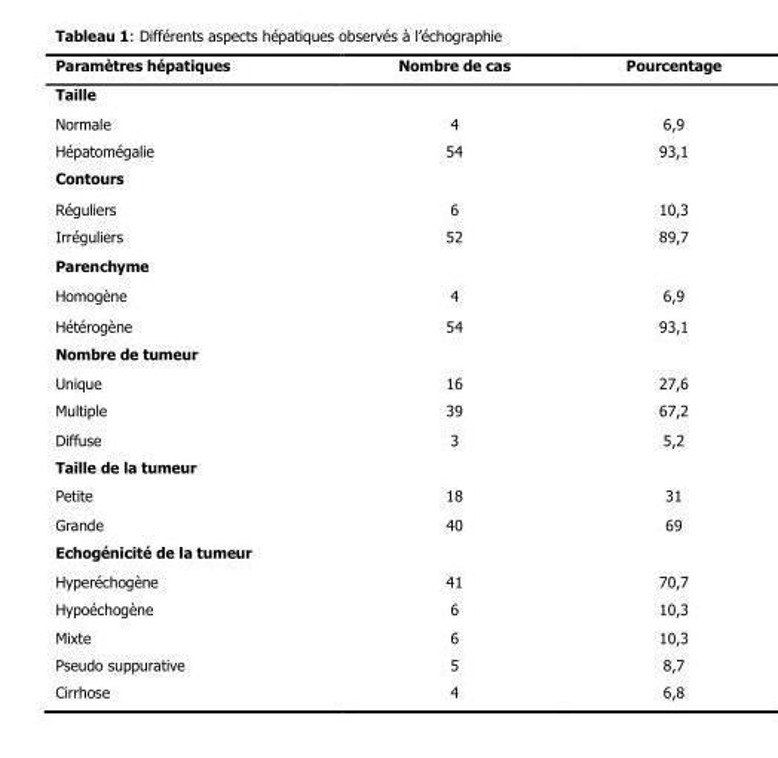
<table><thead><tr><td>Paramètres hépatiques</td><td>Nombre de cas</td><td>Pourcentage</td></tr></thead><tbody><tr><td colspan="3">Taille</td></tr><tr><td>Normale</td><td>4</td><td>6,9</td></tr><tr><td>Hépatomégalie</td><td>54</td><td>93,1</td></tr><tr><td colspan="3">Contours</td></tr><tr><td>Réguliers</td><td>6</td><td>10,3</td></tr><tr><td>Irréguliers</td><td>52</td><td>89,7</td></tr><tr><td colspan="3">Parenchyme</td></tr><tr><td>Homogène</td><td>4</td><td>6,9</td></tr><tr><td>Hétérogène</td><td>54</td><td>93,1</td></tr><tr><td colspan="3">Nombre de tumeur</td></tr><tr><td>Unique</td><td>16</td><td>27,6</td></tr><tr><td>Multiple</td><td>39</td><td>67,2</td></tr><tr><td>Diffuse</td><td>3</td><td>5,2</td></tr><tr><td colspan="3">Taille de la tumeur</td></tr><tr><td>Petite</td><td>18</td><td>31</td></tr><tr><td>Grande</td><td>40</td><td>69</td></tr><tr><td colspan="3">Echogénicité de la tumeur</td></tr><tr><td>Hyperéchogène</td><td>41</td><td>70,7</td></tr><tr><td>Hypoéchogène</td><td>6</td><td>10,3</td></tr><tr><td>Mixte</td><td>6</td><td>10,3</td></tr><tr><td>Pseudo suppurative</td><td>5</td><td>8,7</td></tr><tr><td>Cirrhose</td><td>4</td><td>6,8</td></tr></tbody></table>